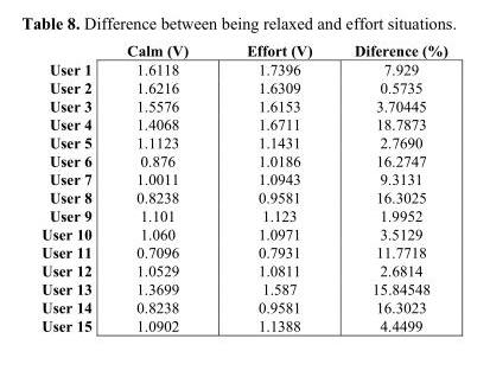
<table><thead><tr><td></td><td>Calm (V)</td><td>Effort (V)</td><td>Diference (%)</td></tr></thead><tbody><tr><td>User 1</td><td>1.6118</td><td>1.7396</td><td>7.929</td></tr><tr><td>User 2</td><td>1.6216</td><td>1.6309</td><td>0.5735</td></tr><tr><td>User 3</td><td>1.5576</td><td>1.6153</td><td>3.70445</td></tr><tr><td>User 4</td><td>1.4068</td><td>1.6711</td><td>18.7873</td></tr><tr><td>User 5</td><td>1.1123</td><td>1.1431</td><td>2.7690</td></tr><tr><td>User 6</td><td>0.876</td><td>1.0186</td><td>16.2747</td></tr><tr><td>User 7</td><td>1.0011</td><td>1.0943</td><td>9.3131</td></tr><tr><td>User 8</td><td>0.8238</td><td>0.9581</td><td>16.3025</td></tr><tr><td>User 9</td><td>1.101</td><td>1.123</td><td>1.9952</td></tr><tr><td>User 10</td><td>1.060</td><td>1.0971</td><td>3.5129</td></tr><tr><td>User 11</td><td>0.7096</td><td>0.7931</td><td>11.7718</td></tr><tr><td>User 12</td><td>1.0529</td><td>1.0811</td><td>2.6814</td></tr><tr><td>User 13</td><td>1.3699</td><td>1.587</td><td>15.84548</td></tr><tr><td>User 14</td><td>0.8238</td><td>0.9581</td><td>16.3023</td></tr><tr><td>User 15</td><td>1.0902</td><td>1.1388</td><td>4.4499</td></tr></tbody></table>